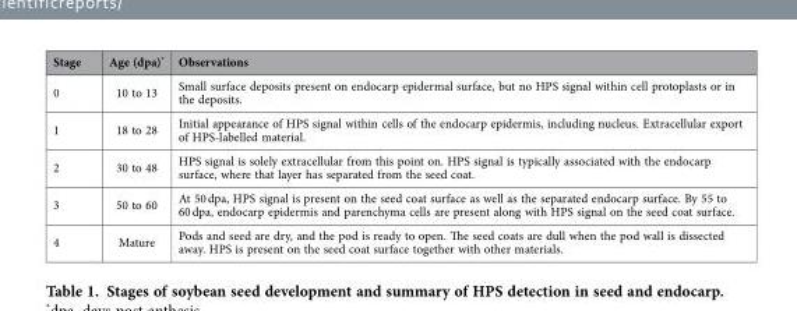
<table><thead><tr><td>Stage</td><td>Age (dpa)*</td><td>Observations</td></tr></thead><tbody><tr><td>0</td><td>10 to 13</td><td>Small surface deposits present on endocarp epidermal surface, but no HPS signal within cell protoplasts or in the deposits.</td></tr><tr><td>1</td><td>18 to 28</td><td>Initial appearance of HPS signal within cells of the endocarp epidermis, including nucleus. Extracellular export of HPS-labelled material.</td></tr><tr><td>2</td><td>30 to 48</td><td>HPS signal is solely extracellular from this point on. HPS signal is typically associated with the endocarp surface, where that layer has separated from the seed coat.</td></tr><tr><td>3</td><td>50 to 60</td><td>At 50 dpa, HPS signal is present on the seed coat surface as well as the separated endocarp surface. By 55 to 60 dpa, endocarp epidermis and parenchyma cells are present along with HPS signal on the seed coat surface.</td></tr><tr><td>4</td><td>Mature</td><td>Pods and seed are dry, and the pod is ready to open. The seed coats are dull when the pod wall is dissected away. HPS is present on the seed coat surface together with other materials.</td></tr></tbody></table>